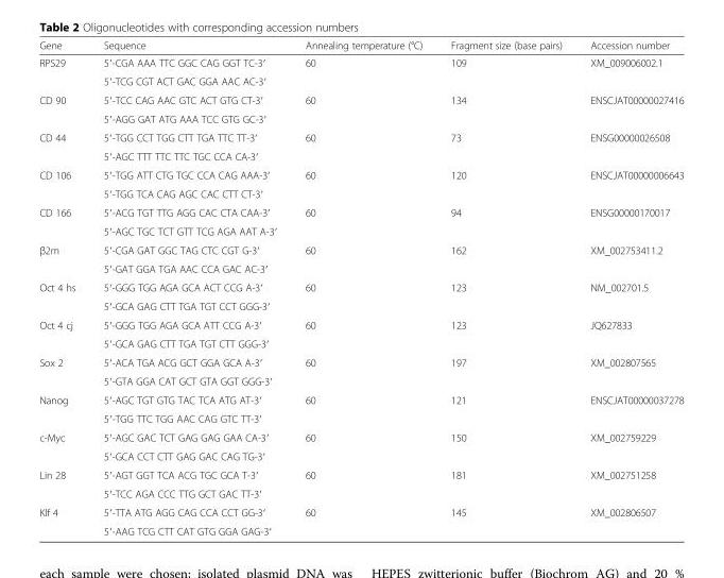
<table><thead><tr><td>Gene</td><td>Sequence</td><td>Annealing temperature (°C)</td><td>Fragment size (base pairs)</td><td>Accession number</td></tr></thead><tbody><tr><td rowspan="2">RPS29</td><td>5′-CGA AAA TTC GGC CAG GGT TC-3′</td><td rowspan="2">60</td><td rowspan="2">109</td><td rowspan="2">XM_009006002.1</td></tr><tr><td>5′-TCG CGT ACT GAC GGA AAC AC-3′</td></tr><tr><td rowspan="2">CD 90</td><td>5′-TCC CAG AAC GTC ACT GTG CT-3′</td><td rowspan="2">60</td><td rowspan="2">134</td><td rowspan="2">ENSCJAT00000027416</td></tr><tr><td>5′-AGG GAT ATG AAA TCC GTG GC-3′</td></tr><tr><td rowspan="2">CD 44</td><td>5′-TGG CCT TGG CTT TGA TTC TT-3′</td><td rowspan="2">60</td><td rowspan="2">73</td><td rowspan="2">ENSG00000026508</td></tr><tr><td>5′-AGC TTT TTC TTC TGC CCA CA-3′</td></tr><tr><td rowspan="2">CD 106</td><td>5′-TGG ATT CTG TGC CCA CAG AAA-3′</td><td rowspan="2">60</td><td rowspan="2">120</td><td rowspan="2">ENSCJAT00000006643</td></tr><tr><td>5′-TGG TCA CAG AGC CAC CTT CT-3′</td></tr><tr><td rowspan="2">CD 166</td><td>5′-ACG TGT TTG AGG CAC CTA CAA-3′</td><td rowspan="2">60</td><td rowspan="2">94</td><td rowspan="2">ENSG00000170017</td></tr><tr><td>5′-AGC TGC TCT GTT TCG AGA AAT A-3′</td></tr><tr><td rowspan="2">β2m</td><td>5′-CGA GAT GGC TAG CTC CGT G-3′</td><td rowspan="2">60</td><td rowspan="2">162</td><td rowspan="2">XM_002753411.2</td></tr><tr><td>5′-GAT GGA TGA AAC CCA GAC AC-3′</td></tr><tr><td rowspan="2">Oct 4 hs</td><td>5′-GGG TGG AGA GCA ACT CCG A-3′</td><td rowspan="2">60</td><td rowspan="2">123</td><td rowspan="2">NM_002701.5</td></tr><tr><td>5′-GCA GAG CTT TGA TGT CCT GGG-3′</td></tr><tr><td rowspan="2">Oct 4 cj</td><td>5′-GGG TGG AGA GCA ATT CCG A-3′</td><td rowspan="2">60</td><td rowspan="2">123</td><td rowspan="2">JQ627833</td></tr><tr><td>5′-GCA GAG CTT TGA TGT CTT GGG-3′</td></tr><tr><td rowspan="2">Sox 2</td><td>5′-ACA TGA ACG GCT GGA GCA A-3′</td><td rowspan="2">60</td><td rowspan="2">197</td><td rowspan="2">XM_002807565</td></tr><tr><td>5′-GTA GGA CAT GCT GTA GGT GGG-3′</td></tr><tr><td rowspan="2">Nanog</td><td>5′-AGC TGT GTG TAC TCA ATG AT-3′</td><td rowspan="2">60</td><td rowspan="2">121</td><td rowspan="2">ENSCJAT00000037278</td></tr><tr><td>5′-TGG TTC TGG AAC CAG GTC TT-3′</td></tr><tr><td rowspan="2">c-Myc</td><td>5′-AGC GAC TCT GAG GAG GAA CA-3′</td><td rowspan="2">60</td><td rowspan="2">150</td><td rowspan="2">XM_002759229</td></tr><tr><td>5′-GCA CCT CTT GAG GAC CAG TG-3′</td></tr><tr><td rowspan="2">Lin 28</td><td>5′-AGT GGT TCA ACG TGC GCA T-3′</td><td rowspan="2">60</td><td rowspan="2">181</td><td rowspan="2">XM_002751258</td></tr><tr><td>5′-TCC AGA CCC TTG GCT GAC TT-3′</td></tr><tr><td rowspan="2">Klf 4</td><td>5′-TTA ATG AGG CAG CCA CCT GG-3′</td><td rowspan="2">60</td><td rowspan="2">145</td><td rowspan="2">XM_002806507</td></tr><tr><td>5′-AAG TCG CTT CAT GTG GGA GAG-3′</td></tr></tbody></table>